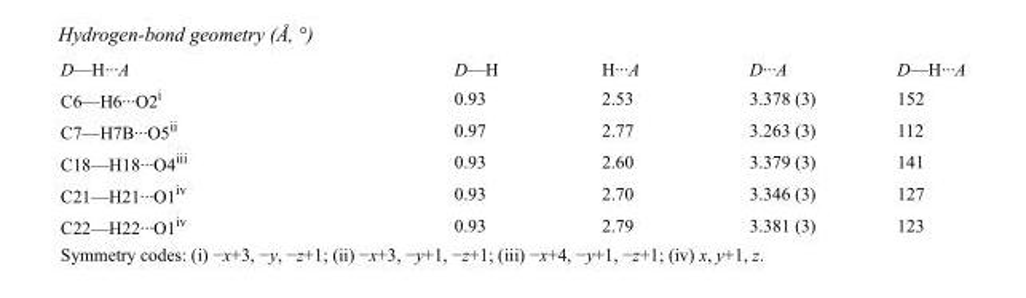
<table><tbody><tr><td>D—H···A</td><td>D—H</td><td>H···A</td><td>D···A</td><td>D—H···A</td></tr><tr><td>C6—H6···O2<sup>i</sup></td><td>0.93</td><td>2.53</td><td>3.378 (3)</td><td>152</td></tr><tr><td>C7—H7B···O5<sup>ii</sup></td><td>0.97</td><td>2.77</td><td>3.263 (3)</td><td>112</td></tr><tr><td>C18—H18···O4<sup>iii</sup></td><td>0.93</td><td>2.60</td><td>3.379 (3)</td><td>141</td></tr><tr><td>C21—H21···O1<sup>iv</sup></td><td>0.93</td><td>2.70</td><td>3.346 (3)</td><td>127</td></tr><tr><td>C22—H22···O1<sup>iv</sup></td><td>0.93</td><td>2.79</td><td>3.381 (3)</td><td>123</td></tr></tbody></table>